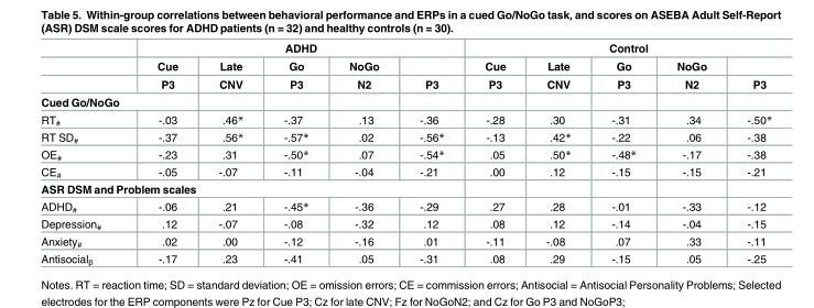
<table><thead><tr><td rowspan="3"></td><td colspan="5">ADHD</td><td colspan="5">Control</td></tr><tr><td rowspan="2">Cue P3</td><td rowspan="2">Late CNV</td><td rowspan="2">Go P3</td><td rowspan="2">NoGo N2</td><td rowspan="2">P3</td><td rowspan="2">Cue P3</td><td rowspan="2">Late CNV</td><td rowspan="2">Go P3</td><td rowspan="2">NoGo N2</td><td rowspan="2">P3</td></tr><tr></tr></thead><tbody><tr><td colspan="11">Cued Go/NoGo</td></tr><tr><td>RT<sub>#</sub></td><td>-.03</td><td>.46*</td><td>-.37</td><td>.13</td><td>-.36</td><td>-.28</td><td>.30</td><td>-.31</td><td>.34</td><td>-.50*</td></tr><tr><td>RT SD<sub>#</sub></td><td>-.37</td><td>.56*</td><td>-.57*</td><td>.02</td><td>-.56*</td><td>-.13</td><td>.42*</td><td>-.22</td><td>.06</td><td>-.38</td></tr><tr><td>OE<sub>#</sub></td><td>-.23</td><td>.31</td><td>-.50*</td><td>.07</td><td>-.54*</td><td>.05</td><td>.50*</td><td>-.48*</td><td>-.17</td><td>-.38</td></tr><tr><td>CE<sub>#</sub></td><td>-.05</td><td>-.07</td><td>-.11</td><td>-.04</td><td>-.21</td><td>.00</td><td>.12</td><td>-.15</td><td>-.15</td><td>-.21</td></tr><tr><td colspan="11">ASR DSM and Problem scales</td></tr><tr><td>ADHD<sub>#</sub></td><td>-.06</td><td>.21</td><td>-.45*</td><td>-.36</td><td>-.29</td><td>.27</td><td>.28</td><td>-.01</td><td>-.33</td><td>-.12</td></tr><tr><td>Depression<sub>#</sub></td><td>.12</td><td>-.07</td><td>-.08</td><td>-.32</td><td>.12</td><td>.08</td><td>.12</td><td>-.14</td><td>-.04</td><td>-.15</td></tr><tr><td>Anxiety<sub>#</sub></td><td>.02</td><td>.00</td><td>-.12</td><td>-.16</td><td>.01</td><td>-.11</td><td>-.08</td><td>.07</td><td>.33</td><td>-.11</td></tr><tr><td>Antisocial<sub>β</sub></td><td>-.17</td><td>.23</td><td>-.41</td><td>.05</td><td>-.31</td><td>.08</td><td>.29</td><td>-.15</td><td>.05</td><td>-.25</td></tr></tbody></table>